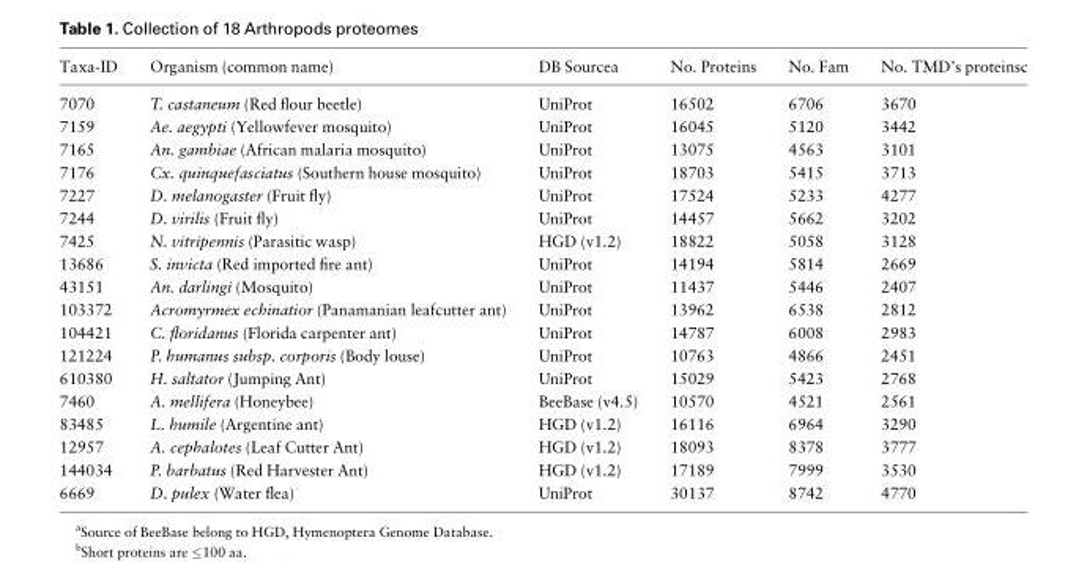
<table><thead><tr><td>Taxa-ID</td><td>Organism (common name)</td><td>DB Sourcea</td><td>No. Proteins</td><td>No. Fam</td><td>No. TMD’s proteinsc</td></tr></thead><tbody><tr><td>7070</td><td>T. castaneum (Red flour beetle)</td><td>UniProt</td><td>16502</td><td>6706</td><td>3670</td></tr><tr><td>7159</td><td>Ae. aegypti (Yellowfever mosquito)</td><td>UniProt</td><td>16045</td><td>5120</td><td>3442</td></tr><tr><td>7165</td><td>An. gambiae (African malaria mosquito)</td><td>UniProt</td><td>13075</td><td>4563</td><td>3101</td></tr><tr><td>7176</td><td>Cx. quinquefasciatus (Southern house mosquito)</td><td>UniProt</td><td>18703</td><td>5415</td><td>3713</td></tr><tr><td>7227</td><td>D. melanogaster (Fruit fly)</td><td>UniProt</td><td>17524</td><td>5233</td><td>4277</td></tr><tr><td>7244</td><td>D. virilis (Fruit fly)</td><td>UniProt</td><td>14457</td><td>5662</td><td>3202</td></tr><tr><td>7425</td><td>N. vitripennis (Parasitic wasp)</td><td>HGD (v1.2)</td><td>18822</td><td>5058</td><td>3128</td></tr><tr><td>13686</td><td>S. invicta (Red imported fire ant)</td><td>UniProt</td><td>14194</td><td>5814</td><td>2669</td></tr><tr><td>43151</td><td>An. darlingi (Mosquito)</td><td>UniProt</td><td>11437</td><td>5446</td><td>2407</td></tr><tr><td>103372</td><td>Acromyrmex echinatior (Panamanian leafcutter ant)</td><td>UniProt</td><td>13962</td><td>6538</td><td>2812</td></tr><tr><td>104421</td><td>C. floridanus (Florida carpenter ant)</td><td>UniProt</td><td>14787</td><td>6008</td><td>2983</td></tr><tr><td>121224</td><td>P. humanus subsp. corporis (Body louse)</td><td>UniProt</td><td>10763</td><td>4866</td><td>2451</td></tr><tr><td>610380</td><td>H. saltator (Jumping Ant)</td><td>UniProt</td><td>15029</td><td>5423</td><td>2768</td></tr><tr><td>7460</td><td>A. mellifera (Honeybee)</td><td>BeeBase (v4.5)</td><td>10570</td><td>4521</td><td>2561</td></tr><tr><td>83485</td><td>L. humile (Argentine ant)</td><td>HGD (v1.2)</td><td>16116</td><td>6964</td><td>3290</td></tr><tr><td>12957</td><td>A. cephalotes (Leaf Cutter Ant)</td><td>HGD (v1.2)</td><td>18093</td><td>8378</td><td>3777</td></tr><tr><td>144034</td><td>P. barbatus (Red Harvester Ant)</td><td>HGD (v1.2)</td><td>17189</td><td>7999</td><td>3530</td></tr><tr><td>6669</td><td>D. pulex (Water flea)</td><td>UniProt</td><td>30137</td><td>8742</td><td>4770</td></tr></tbody></table>